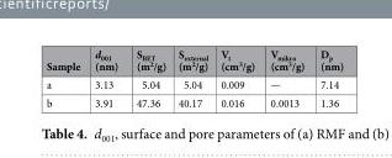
<table><thead><tr><td>Sample</td><td>d<sub>001</sub> (nm)</td><td>S<sub>BET</sub> (m<sup>2</sup>/g)</td><td>S<sub>external</sub> (m<sup>2</sup>/g)</td><td>V<sub>t</sub> (cm<sup>3</sup>/g)</td><td>V<sub>mikro</sub> (cm<sup>3</sup>/g)</td><td>D<sub>p</sub> (nm)</td></tr></thead><tbody><tr><td>a</td><td>3.13</td><td>5.04</td><td>5.04</td><td>0.009</td><td>—</td><td>7.14</td></tr><tr><td>b</td><td>3.91</td><td>47.36</td><td>40.17</td><td>0.016</td><td>0.0013</td><td>1.36</td></tr></tbody></table>